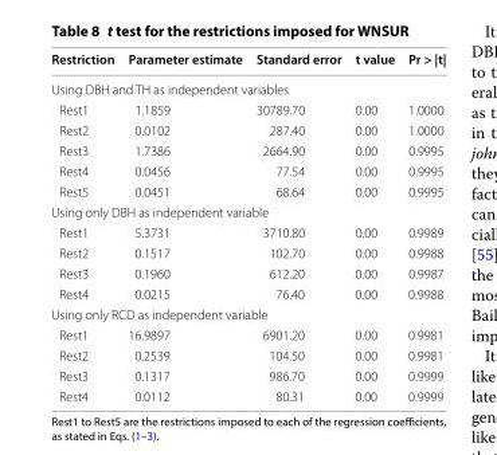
<table><thead><tr><td>Restriction</td><td>Parameter estimate</td><td>Standard error</td><td>t value</td><td>Pr &gt; |t|</td></tr></thead><tbody><tr><td colspan="5">Using DBH and TH as independent variables</td></tr><tr><td>Rest1</td><td>1.1859</td><td>30789.70</td><td>0.00</td><td>1.0000</td></tr><tr><td>Rest2</td><td>0.0102</td><td>287.40</td><td>0.00</td><td>1.0000</td></tr><tr><td>Rest3</td><td>1.7386</td><td>2664.90</td><td>0.00</td><td>0.9995</td></tr><tr><td>Rest4</td><td>0.0456</td><td>77.54</td><td>0.00</td><td>0.9995</td></tr><tr><td>Rest5</td><td>0.0451</td><td>68.64</td><td>0.00</td><td>0.9995</td></tr><tr><td colspan="5">Using only DBH as independent variable</td></tr><tr><td>Rest1</td><td>5.3731</td><td>3710.80</td><td>0.00</td><td>0.9989</td></tr><tr><td>Rest2</td><td>0.1517</td><td>102.70</td><td>0.00</td><td>0.9988</td></tr><tr><td>Rest3</td><td>0.1960</td><td>612.20</td><td>0.00</td><td>0.9987</td></tr><tr><td>Rest4</td><td>0.0215</td><td>76.40</td><td>0.00</td><td>0.9988</td></tr><tr><td colspan="5">Using only RCD as independent variable</td></tr><tr><td>Rest1</td><td>16.9897</td><td>6901.20</td><td>0.00</td><td>0.9981</td></tr><tr><td>Rest2</td><td>0.2539</td><td>104.50</td><td>0.00</td><td>0.9981</td></tr><tr><td>Rest3</td><td>0.1317</td><td>986.70</td><td>0.00</td><td>0.9999</td></tr><tr><td>Rest4</td><td>0.0112</td><td>80.31</td><td>0.00</td><td>0.9999</td></tr></tbody></table>